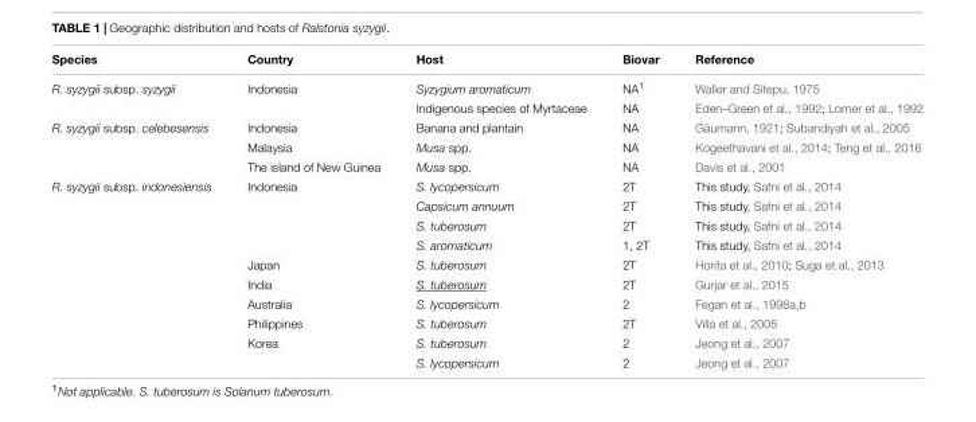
<table><thead><tr><td>Species</td><td>Country</td><td>Host</td><td>Biovar</td><td>Reference</td></tr></thead><tbody><tr><td rowspan="2">R. syzygii subsp. syzygii</td><td>Indonesia</td><td>Syzygium aromaticum</td><td>NA<sup>1</sup></td><td>Waller and Sitepu, 1975</td></tr><tr><td></td><td>Indigenous species of Myrtaceae</td><td>NA</td><td>Eden–Green et al., 1992; Lomer et al., 1992</td></tr><tr><td rowspan="3">R. syzygii subsp. celebesensis</td><td>Indonesia</td><td>Banana and plantain</td><td>NA</td><td>Gäumann, 1921; Subandiyah et al., 2005</td></tr><tr><td>Malaysia</td><td>Musa spp.</td><td>NA</td><td>Kogeethavani et al., 2014; Teng et al., 2016</td></tr><tr><td>The island of New Guinea</td><td>Musa spp.</td><td>NA</td><td>Davis et al., 2001</td></tr><tr><td rowspan="10">R. syzygii subsp. indonesiensis</td><td>Indonesia</td><td>S. lycopersicum</td><td>2T</td><td>This study, Safni et al., 2014</td></tr><tr><td></td><td>Capsicum annuum</td><td>2T</td><td>This study, Safni et al., 2014</td></tr><tr><td></td><td>S. tuberosum</td><td>2T</td><td>This study, Safni et al., 2014</td></tr><tr><td></td><td>S. aromaticum</td><td>1, 2T</td><td>This study, Safni et al., 2014</td></tr><tr><td>Japan</td><td>S. tuberosum</td><td>2T</td><td>Horita et al., 2010; Suga et al., 2013</td></tr><tr><td>India</td><td>S. tuberosum</td><td>2T</td><td>Gurjar et al., 2015</td></tr><tr><td>Australia</td><td>S. lycopersicum</td><td>2</td><td>Fegan et al., 1998a,b</td></tr><tr><td>Philippines</td><td>S. tuberosum</td><td>2T</td><td>Villa et al., 2005</td></tr><tr><td>Korea</td><td>S. tuberosum</td><td>2</td><td>Jeong et al., 2007</td></tr><tr><td></td><td>S. lycopersicum</td><td>2</td><td>Jeong et al., 2007</td></tr></tbody></table>